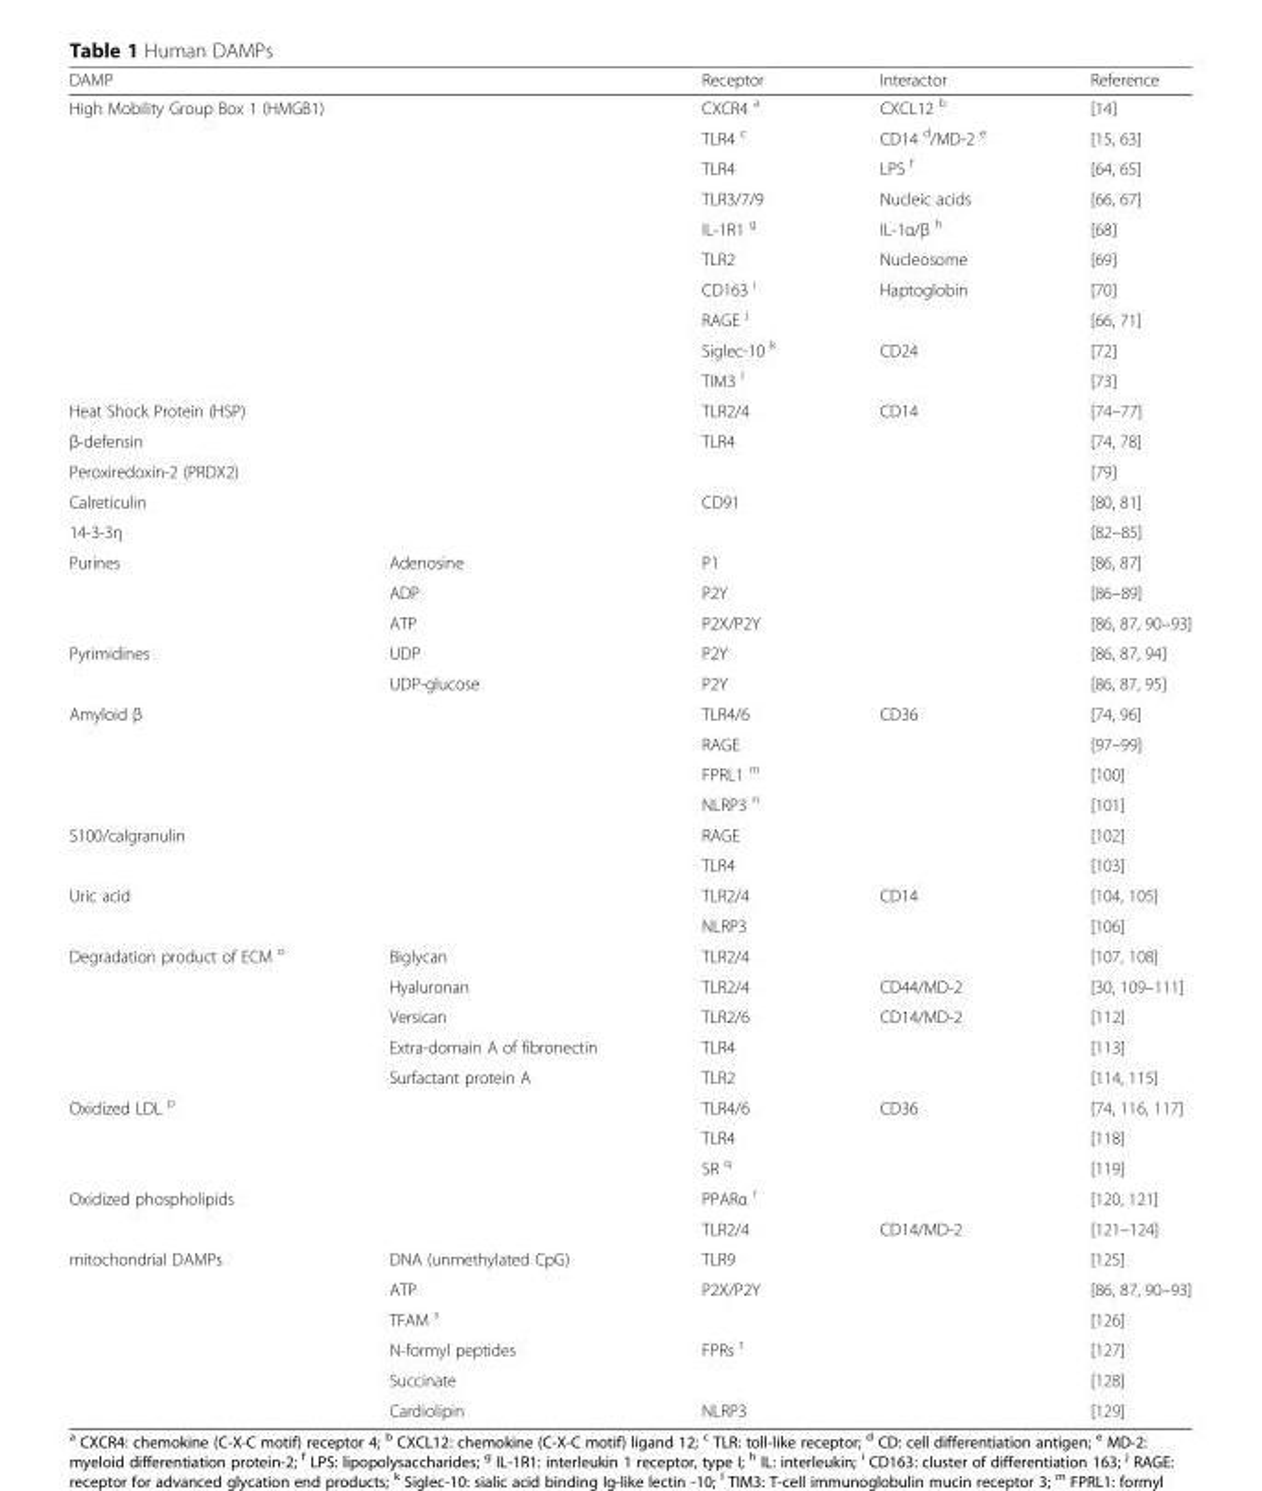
<table><thead><tr><td colspan="2">DAMP</td><td>Receptor</td><td>Interactor</td><td>Reference</td></tr></thead><tbody><tr><td rowspan="10" colspan="2">High Mobility Group Box 1 (HMGB1)</td><td>CXCR4 <sup>a</sup></td><td>CXCL12 <sup>b</sup></td><td>[14]</td></tr><tr><td>TLR4 <sup>c</sup></td><td>CD14 <sup>d</sup>/MD-2 <sup>e</sup></td><td>[15, 63]</td></tr><tr><td>TLR4</td><td>LPS <sup>f</sup></td><td>[64, 65]</td></tr><tr><td>TLR3/7/9</td><td>Nucleic acids</td><td>[66, 67]</td></tr><tr><td>IL-1R1 <sup>g</sup></td><td>IL-1α/β <sup>h</sup></td><td>[68]</td></tr><tr><td>TLR2</td><td>Nucleosome</td><td>[69]</td></tr><tr><td>CD163 <sup>i</sup></td><td>Haptoglobin</td><td>[70]</td></tr><tr><td>RAGE <sup>j</sup></td><td></td><td>[66, 71]</td></tr><tr><td>Siglec-10 <sup>k</sup></td><td>CD24</td><td>[72]</td></tr><tr><td>TIM3 <sup>l</sup></td><td></td><td>[73]</td></tr><tr><td colspan="2">Heat Shock Protein (HSP)</td><td>TLR2/4</td><td>CD14</td><td>[74–77]</td></tr><tr><td colspan="2">β-defensin</td><td>TLR4</td><td></td><td>[74, 78]</td></tr><tr><td colspan="2">Peroxiredoxin-2 (PRDX2)</td><td></td><td></td><td>[79]</td></tr><tr><td colspan="2">Calreticulin</td><td>CD91</td><td></td><td>[80, 81]</td></tr><tr><td colspan="2">14-3-3η</td><td></td><td></td><td>[82–85]</td></tr><tr><td rowspan="3">Purines</td><td>Adenosine</td><td>P1</td><td></td><td>[86, 87]</td></tr><tr><td>ADP</td><td>P2Y</td><td></td><td>[86–89]</td></tr><tr><td>ATP</td><td>P2X/P2Y</td><td></td><td>[86, 87, 90–93]</td></tr><tr><td rowspan="2">Pyrimidines</td><td>UDP</td><td>P2Y</td><td></td><td>[86, 87, 94]</td></tr><tr><td>UDP-glucose</td><td>P2Y</td><td></td><td>[86, 87, 95]</td></tr><tr><td rowspan="4" colspan="2">Amyloid β</td><td>TLR4/6</td><td>CD36</td><td>[74, 96]</td></tr><tr><td>RAGE</td><td></td><td>[97–99]</td></tr><tr><td>FPRL1 <sup>m</sup></td><td></td><td>[100]</td></tr><tr><td>NLRP3 <sup>n</sup></td><td></td><td>[101]</td></tr><tr><td rowspan="2" colspan="2">S100/calgranulin</td><td>RAGE</td><td></td><td>[102]</td></tr><tr><td>TLR4</td><td></td><td>[103]</td></tr><tr><td rowspan="2" colspan="2">Uric acid</td><td>TLR2/4</td><td>CD14</td><td>[104, 105]</td></tr><tr><td>NLRP3</td><td></td><td>[106]</td></tr><tr><td rowspan="5">Degradation product of ECM <sup>o</sup></td><td>Biglycan</td><td>TLR2/4</td><td></td><td>[107, 108]</td></tr><tr><td>Hyaluronan</td><td>TLR2/4</td><td>CD44/MD-2</td><td>[30, 109–111]</td></tr><tr><td>Versican</td><td>TLR2/6</td><td>CD14/MD-2</td><td>[112]</td></tr><tr><td>Extra-domain A of fibronectin</td><td>TLR4</td><td></td><td>[113]</td></tr><tr><td>Surfactant protein A</td><td>TLR2</td><td></td><td>[114, 115]</td></tr><tr><td rowspan="3" colspan="2">Oxidized LDL <sup>p</sup></td><td>TLR4/6</td><td>CD36</td><td>[74, 116, 117]</td></tr><tr><td>TLR4</td><td></td><td>[118]</td></tr><tr><td>SR <sup>q</sup></td><td></td><td>[119]</td></tr><tr><td rowspan="2" colspan="2">Oxidized phospholipids</td><td>PPARα <sup>r</sup></td><td></td><td>[120, 121]</td></tr><tr><td>TLR2/4</td><td>CD14/MD-2</td><td>[121–124]</td></tr><tr><td rowspan="6">mitochondrial DAMPs</td><td>DNA (unmethylated CpG)</td><td>TLR9</td><td></td><td>[125]</td></tr><tr><td>ATP</td><td>P2X/P2Y</td><td></td><td>[86, 87, 90–93]</td></tr><tr><td>TFAM <sup>s</sup></td><td></td><td></td><td>[126]</td></tr><tr><td>N-formyl peptides</td><td>FPRs <sup>t</sup></td><td></td><td>[127]</td></tr><tr><td>Succinate</td><td></td><td></td><td>[128]</td></tr><tr><td>Cardiolipin</td><td>NLRP3</td><td></td><td>[129]</td></tr></tbody></table>